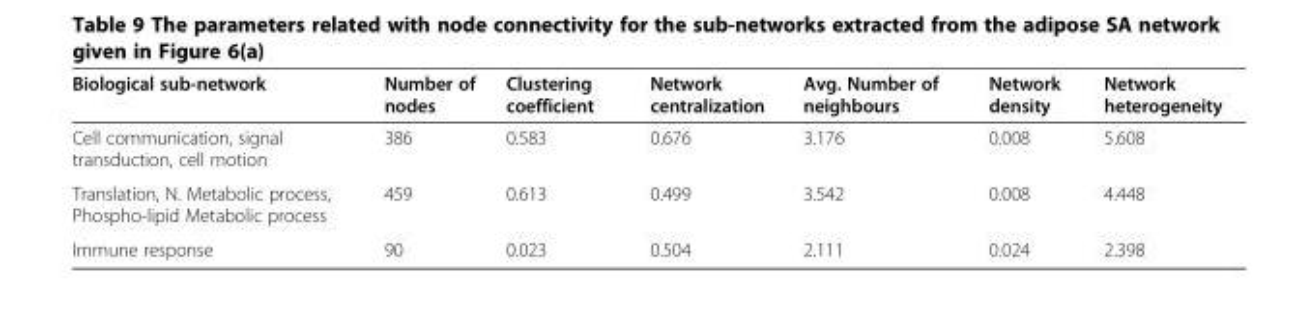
<table><thead><tr><td>Biological sub-network</td><td>Number of nodes</td><td>Clustering coefficient</td><td>Network centralization</td><td>Avg. Number of neighbours</td><td>Network density</td><td>Network heterogeneity</td></tr></thead><tbody><tr><td>Cell communication, signal transduction, cell motion</td><td>386</td><td>0.583</td><td>0.676</td><td>3.176</td><td>0.008</td><td>5.608</td></tr><tr><td>Translation, N. Metabolic process, Phospho-lipid Metabolic process</td><td>459</td><td>0.613</td><td>0.499</td><td>3.542</td><td>0.008</td><td>4.448</td></tr><tr><td>Immune response</td><td>90</td><td>0.023</td><td>0.504</td><td>2.111</td><td>0.024</td><td>2.398</td></tr></tbody></table>